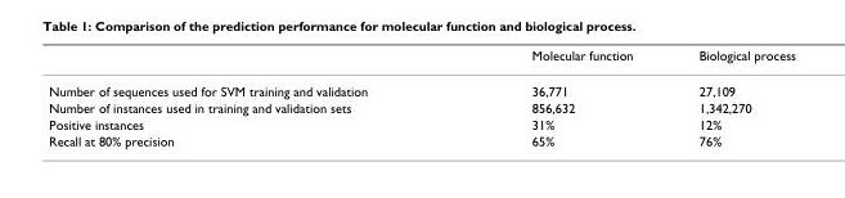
<table><thead><tr><td></td><td>Molecular function</td><td>Biological process</td></tr></thead><tbody><tr><td>Number of sequences used for SVM training and validation</td><td>36,771</td><td>27,109</td></tr><tr><td>Number of instances used in training and validation sets</td><td>856,632</td><td>1,342,270</td></tr><tr><td>Positive instances</td><td>31%</td><td>12%</td></tr><tr><td>Recall at 80% precision</td><td>65%</td><td>76%</td></tr></tbody></table>